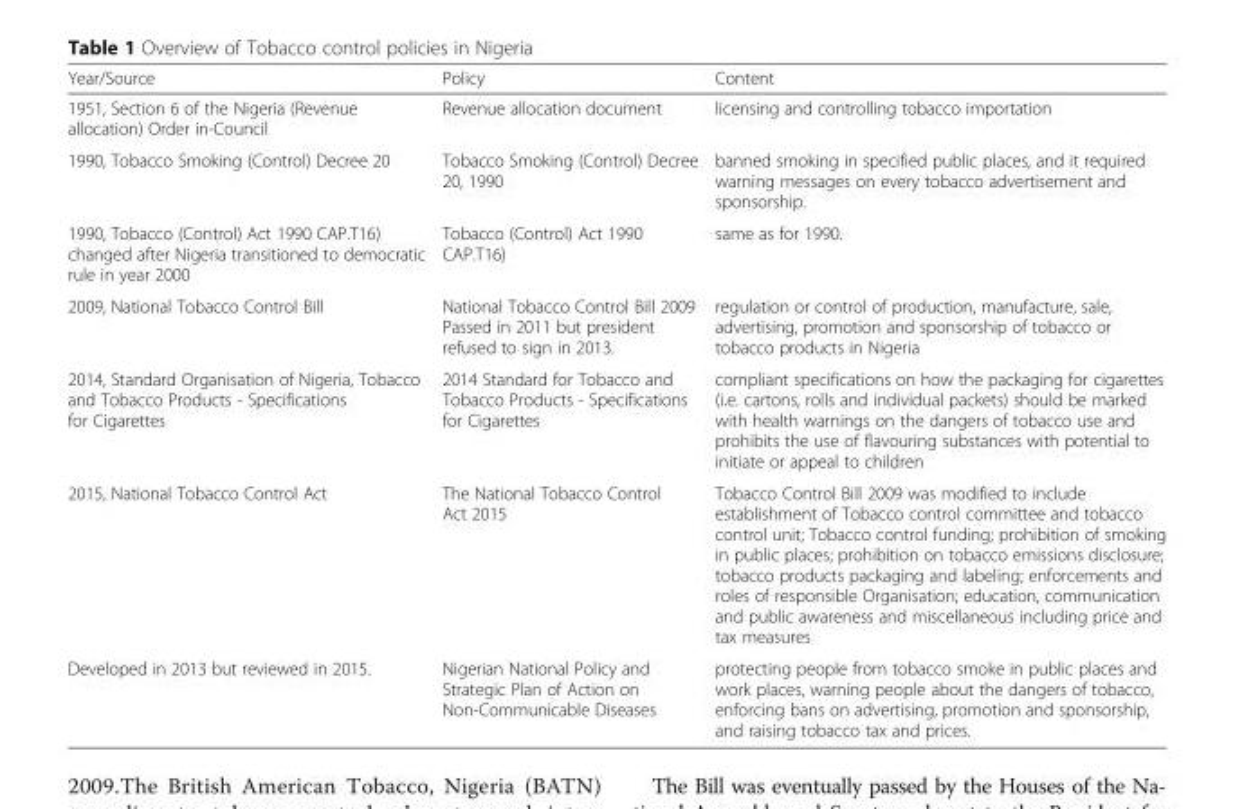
<table><thead><tr><td>Year/Source</td><td>Policy</td><td>Content</td></tr></thead><tbody><tr><td>1951, Section 6 of the Nigeria (Revenue allocation) Order in-Council</td><td>Revenue allocation document</td><td>licensing and controlling tobacco importation</td></tr><tr><td>1990, Tobacco Smoking (Control) Decree 20</td><td>Tobacco Smoking (Control) Decree 20, 1990</td><td>banned smoking in specified public places, and it required warning messages on every tobacco advertisement and sponsorship.</td></tr><tr><td>1990, Tobacco (Control) Act 1990 CAP.T16) changed after Nigeria transitioned to democratic rule in year 2000</td><td>Tobacco (Control) Act 1990 CAP.T16)</td><td>same as for 1990.</td></tr><tr><td>2009, National Tobacco Control Bill</td><td>National Tobacco Control Bill 2009 Passed in 2011 but president refused to sign in 2013.</td><td>regulation or control of production, manufacture, sale, advertising, promotion and sponsorship of tobacco or tobacco products in Nigeria</td></tr><tr><td>2014, Standard Organisation of Nigeria, Tobacco and Tobacco Products - Specifications for Cigarettes</td><td>2014 Standard for Tobacco and Tobacco Products - Specifications for Cigarettes</td><td>compliant specifications on how the packaging for cigarettes (i.e. cartons, rolls and individual packets) should be marked with health warnings on the dangers of tobacco use and prohibits the use of flavouring substances with potential to initiate or appeal to children</td></tr><tr><td>2015, National Tobacco Control Act</td><td>The National Tobacco Control Act 2015</td><td>Tobacco Control Bill 2009 was modified to include establishment of Tobacco control committee and tobacco control unit; Tobacco control funding; prohibition of smoking in public places; prohibition on tobacco emissions disclosure; tobacco products packaging and labeling; enforcements and roles of responsible Organisation; education, communication and public awareness and miscellaneous including price and tax measures</td></tr><tr><td>Developed in 2013 but reviewed in 2015.</td><td>Nigerian National Policy and Strategic Plan of Action on Non-Communicable Diseases</td><td>protecting people from tobacco smoke in public places and work places, warning people about the dangers of tobacco, enforcing bans on advertising, promotion and sponsorship, and raising tobacco tax and prices.</td></tr></tbody></table>